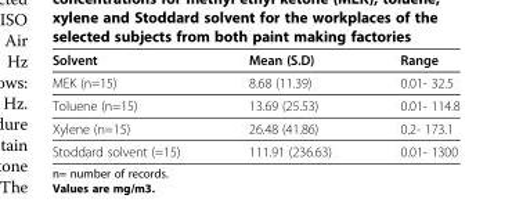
<table><thead><tr><td>Solvent</td><td>Mean (S.D)</td><td>Range</td></tr></thead><tbody><tr><td>MEK (n=15)</td><td>8.68 (11.39)</td><td>0.01- 32.5</td></tr><tr><td>Toluene (n=15)</td><td>13.69 (25.53)</td><td>0.01- 114.8</td></tr><tr><td>Xylene (n=15)</td><td>26.48 (41.86)</td><td>0.2- 173.1</td></tr><tr><td>Stoddard solvent (=15)</td><td>111.91 (236.63)</td><td>0.01- 1300</td></tr></tbody></table>